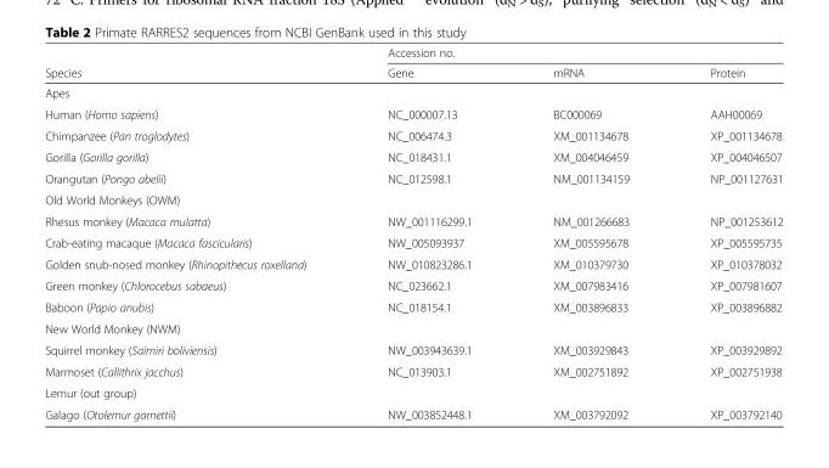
<table><thead><tr><td rowspan="2">Species</td><td colspan="3">Accession no.</td></tr><tr><td>Gene</td><td>mRNA</td><td>Protein</td></tr></thead><tbody><tr><td colspan="4">Apes</td></tr><tr><td>Human (Homo sapiens)</td><td>NC_000007.13</td><td>BC000069</td><td>AAH00069</td></tr><tr><td>Chimpanzee (Pan troglodytes)</td><td>NC_006474.3</td><td>XM_001134678</td><td>XP_001134678</td></tr><tr><td>Gorilla (Gorilla gorilla)</td><td>NC_018431.1</td><td>XM_004046459</td><td>XP_004046507</td></tr><tr><td>Orangutan (Pongo abelii)</td><td>NC_012598.1</td><td>NM_001134159</td><td>NP_001127631</td></tr><tr><td colspan="4">Old World Monkeys (OWM)</td></tr><tr><td>Rhesus monkey (Macaca mulatta)</td><td>NW_001116299.1</td><td>NM_001266683</td><td>NP_001253612</td></tr><tr><td>Crab-eating macaque (Macaca fascicularis)</td><td>NW_005093937</td><td>XM_005595678</td><td>XP_005595735</td></tr><tr><td>Golden snub-nosed monkey (Rhinopithecus roxellana)</td><td>NW_010823286.1</td><td>XM_010379730</td><td>XP_010378032</td></tr><tr><td>Green monkey (Chlorocebus sabaeus)</td><td>NC_023662.1</td><td>XM_007983416</td><td>XP_007981607</td></tr><tr><td>Baboon (Papio anubis)</td><td>NC_018154.1</td><td>XM_003896833</td><td>XP_003896882</td></tr><tr><td colspan="4">New World Monkey (NWM)</td></tr><tr><td>Squirrel monkey (Saimiri boliviensis)</td><td>NW_003943639.1</td><td>XM_003929843</td><td>XP_003929892</td></tr><tr><td>Marmoset (Callithrix jacchus)</td><td>NC_013903.1</td><td>XM_002751892</td><td>XP_002751938</td></tr><tr><td colspan="4">Lemur (out group)</td></tr><tr><td>Galago (Otolemur garnettii)</td><td>NW_003852448.1</td><td>XM_003792092</td><td>XP_003792140</td></tr></tbody></table>